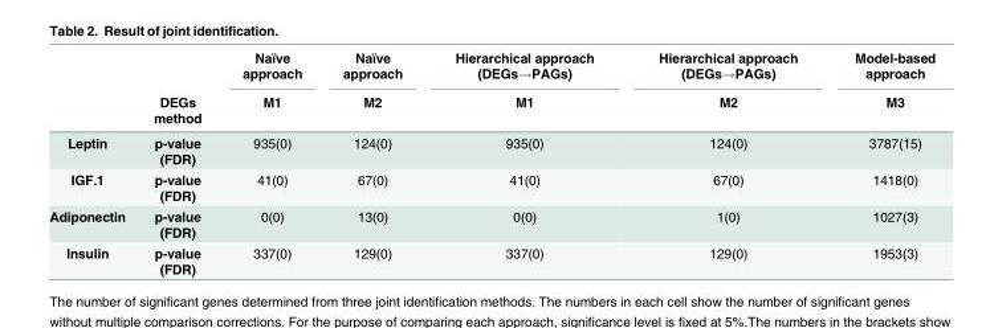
<table><thead><tr><td rowspan="2"></td><td rowspan="2">DEGs method</td><td rowspan="2">Naïve approach M1</td><td rowspan="2">Naïve approach M2</td><td rowspan="2">Hierarchical approach (DEGs→PAGs) M1</td><td rowspan="2">Hierarchical approach (DEGs→PAGs) M2</td><td rowspan="2">Model-based approach M3</td></tr><tr></tr></thead><tbody><tr><td>Leptin</td><td>p-value (FDR)</td><td>935(0)</td><td>124(0)</td><td>935(0)</td><td>124(0)</td><td>3787(15)</td></tr><tr><td>IGF.1</td><td>p-value (FDR)</td><td>41(0)</td><td>67(0)</td><td>41(0)</td><td>67(0)</td><td>1418(0)</td></tr><tr><td>Adiponectin</td><td>p-value (FDR)</td><td>0(0)</td><td>13(0)</td><td>0(0)</td><td>1(0)</td><td>1027(3)</td></tr><tr><td>Insulin</td><td>p-value (FDR)</td><td>337(0)</td><td>129(0)</td><td>337(0)</td><td>129(0)</td><td>1953(3)</td></tr></tbody></table>